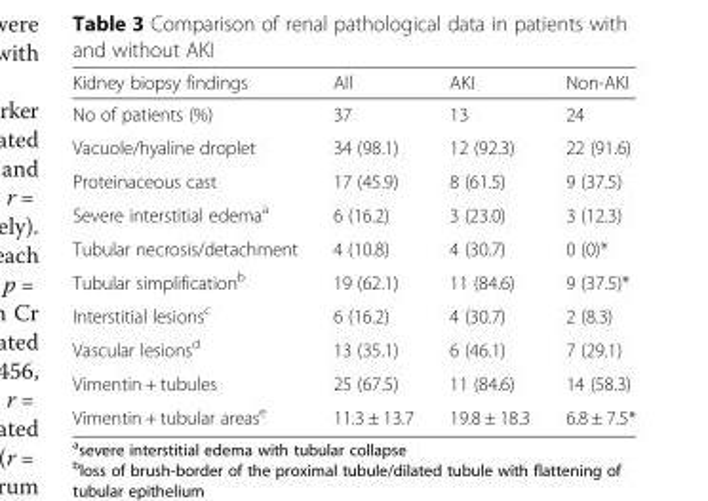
<table><thead><tr><td>Kidney biopsy findings</td><td>All</td><td>AKI</td><td>Non-AKI</td></tr></thead><tbody><tr><td>No of patients (%)</td><td>37</td><td>13</td><td>24</td></tr><tr><td>Vacuole/hyaline droplet</td><td>34 (98.1)</td><td>12 (92.3)</td><td>22 (91.6)</td></tr><tr><td>Proteinaceous cast</td><td>17 (45.9)</td><td>8 (61.5)</td><td>9 (37.5)</td></tr><tr><td>Severe interstitial edema<sup>a</sup></td><td>6 (16.2)</td><td>3 (23.0)</td><td>3 (12.3)</td></tr><tr><td>Tubular necrosis/detachment</td><td>4 (10.8)</td><td>4 (30.7)</td><td>0 (0)*</td></tr><tr><td>Tubular simplification<sup>b</sup></td><td>19 (62.1)</td><td>11 (84.6)</td><td>9 (37.5)*</td></tr><tr><td>Interstitial lesions<sup>c</sup></td><td>6 (16.2)</td><td>4 (30.7)</td><td>2 (8.3)</td></tr><tr><td>Vascular lesions<sup>d</sup></td><td>13 (35.1)</td><td>6 (46.1)</td><td>7 (29.1)</td></tr><tr><td>Vimentin + tubules</td><td>25 (67.5)</td><td>11 (84.6)</td><td>14 (58.3)</td></tr><tr><td>Vimentin + tubular areas<sup>e</sup></td><td>11.3 ± 13.7</td><td>19.8 ± 18.3</td><td>6.8 ± 7.5*</td></tr></tbody></table>